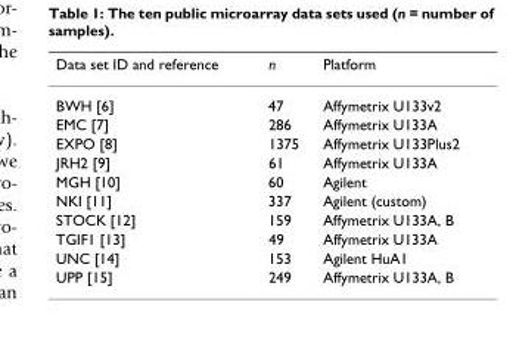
<table><thead><tr><td>Data set ID and reference</td><td>n</td><td>Platform</td></tr></thead><tbody><tr><td>BWH [6]</td><td>47</td><td>Affymetrix U133v2</td></tr><tr><td>EMC [7]</td><td>286</td><td>Affymetrix U133A</td></tr><tr><td>EXPO [8]</td><td>1375</td><td>Affymetrix U133Plus2</td></tr><tr><td>JRH2 [9]</td><td>61</td><td>Affymetrix U133A</td></tr><tr><td>MGH [10]</td><td>60</td><td>Agilent</td></tr><tr><td>NKI [11]</td><td>337</td><td>Agilent (custom)</td></tr><tr><td>STOCK [12]</td><td>159</td><td>Affymetrix U133A, B</td></tr><tr><td>TGIF1 [13]</td><td>49</td><td>Affymetrix U133A</td></tr><tr><td>UNC [14]</td><td>153</td><td>Agilent HuA1</td></tr><tr><td>UPP [15]</td><td>249</td><td>Affymetrix U133A, B</td></tr></tbody></table>